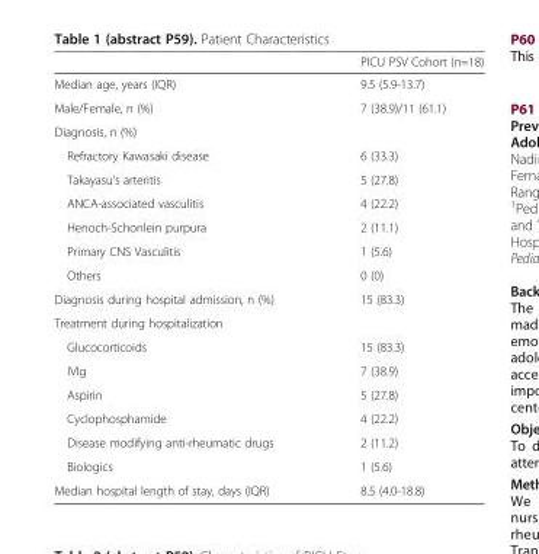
<table><thead><tr><td></td><td>PICU PSV Cohort (n=18)</td></tr></thead><tbody><tr><td>Median age, years (IQR)</td><td>9.5 (5.9-13.7)</td></tr><tr><td>Male/Female, n (%)</td><td>7 (38.9)/11 (61.1)</td></tr><tr><td colspan="2">Diagnosis, n (%)</td></tr><tr><td>Refractory Kawasaki disease</td><td>6 (33.3)</td></tr><tr><td>Takayasu’s arteritis</td><td>5 (27.8)</td></tr><tr><td>ANCA-associated vasculitis</td><td>4 (22.2)</td></tr><tr><td>Henoch-Schonlein purpura</td><td>2 (11.1)</td></tr><tr><td>Primary CNS Vasculitis</td><td>1 (5.6)</td></tr><tr><td>Others</td><td>0 (0)</td></tr><tr><td>Diagnosis during hospital admission, n (%)</td><td>15 (83.3)</td></tr><tr><td colspan="2">Treatment during hospitalization</td></tr><tr><td>Glucocorticoids</td><td>15 (83.3)</td></tr><tr><td>IVIg</td><td>7 (38.9)</td></tr><tr><td>Aspirin</td><td>5 (27.8)</td></tr><tr><td>Cyclophosphamide</td><td>4 (22.2)</td></tr><tr><td>Disease modifying anti-rheumatic drugs</td><td>2 (11.2)</td></tr><tr><td>Biologics</td><td>1 (5.6)</td></tr><tr><td>Median hospital length of stay, days (IQR)</td><td>8.5 (4.0-18.8)</td></tr></tbody></table>